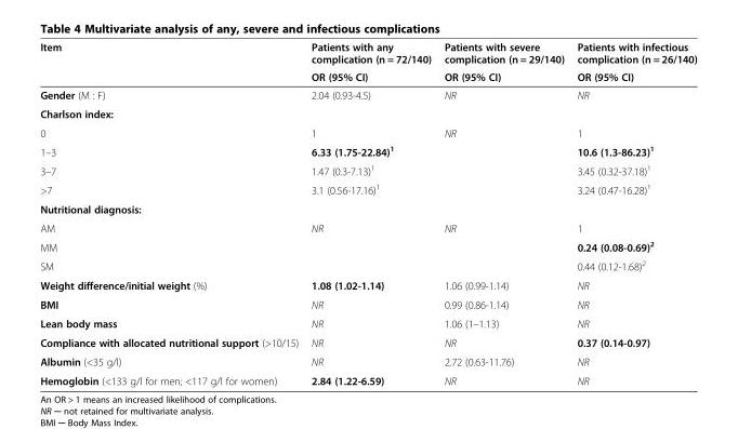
<table><thead><tr><td rowspan="2">Item</td><td rowspan="2">Patients with any complication (n = 72/140) OR (95% CI)</td><td rowspan="2">Patients with severe complication (n = 29/140) OR (95% CI)</td><td rowspan="2">Patients with infectious complication (n = 26/140) OR (95% CI)</td></tr><tr></tr></thead><tbody><tr><td>Gender (M : F)</td><td>2.04 (0.93-4.5)</td><td>NR</td><td>NR</td></tr><tr><td colspan="4">Charlson index:</td></tr><tr><td>0</td><td>1</td><td>NR</td><td>1</td></tr><tr><td>1–3</td><td>6.33 (1.75-22.84)<sup>1</sup></td><td></td><td>10.6 (1.3-86.23)<sup>1</sup></td></tr><tr><td>3–7</td><td>1.47 (0.3-7.13)<sup>1</sup></td><td></td><td>3.45 (0.32-37.18)<sup>1</sup></td></tr><tr><td>&gt;7</td><td>3.1 (0.56-17.16)<sup>1</sup></td><td></td><td>3.24 (0.47-16.28)<sup>1</sup></td></tr><tr><td colspan="4">Nutritional diagnosis:</td></tr><tr><td>AM</td><td>NR</td><td>NR</td><td>1</td></tr><tr><td>MM</td><td></td><td></td><td>0.24 (0.08-0.69)<sup>2</sup></td></tr><tr><td>SM</td><td></td><td></td><td>0.44 (0.12-1.68)<sup>2</sup></td></tr><tr><td>Weight difference/initial weight (%)</td><td>1.08 (1.02-1.14)</td><td>1.06 (0.99-1.14)</td><td>NR</td></tr><tr><td>BMI</td><td>NR</td><td>0.99 (0.86-1.14)</td><td>NR</td></tr><tr><td>Lean body mass</td><td>NR</td><td>1.06 (1–1.13)</td><td>NR</td></tr><tr><td>Compliance with allocated nutritional support (&gt;10/15)</td><td>NR</td><td>NR</td><td>0.37 (0.14-0.97)</td></tr><tr><td>Albumin (&lt;35 g/l)</td><td>NR</td><td>2.72 (0.63-11.76)</td><td>NR</td></tr><tr><td>Hemoglobin (&lt;133 g/l for men; &lt;117 g/l for women)</td><td>2.84 (1.22-6.59)</td><td>NR</td><td>NR</td></tr></tbody></table>